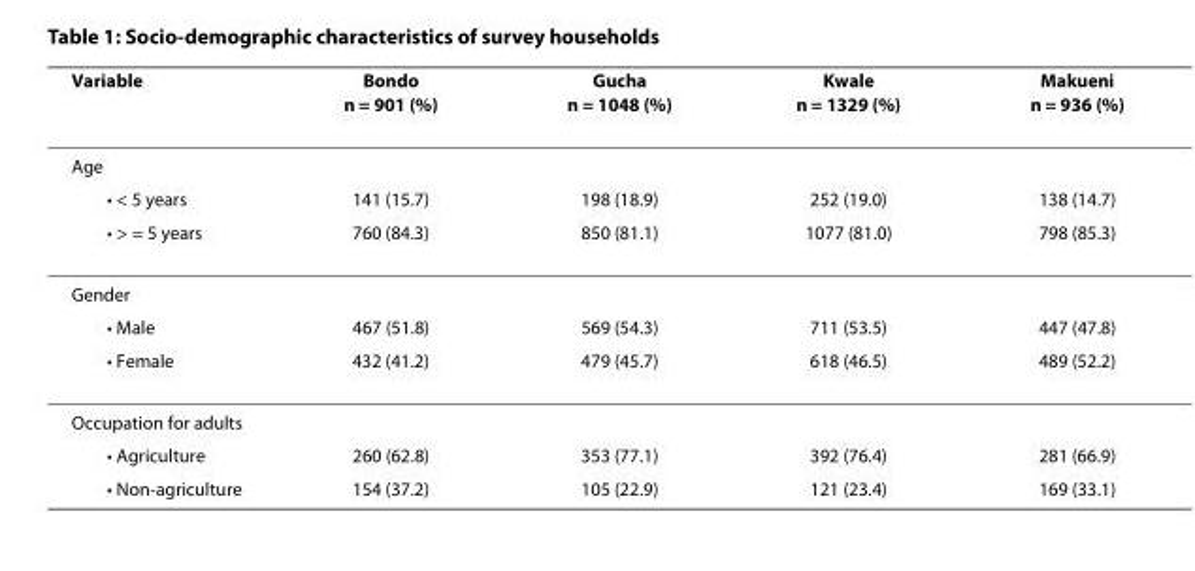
<table><thead><tr><td>Variable</td><td>Bondo n = 901 (%)</td><td>Gucha n = 1048 (%)</td><td>Kwale n = 1329 (%)</td><td>Makueni n = 936 (%)</td></tr></thead><tbody><tr><td colspan="5">Age</td></tr><tr><td>• &lt; 5 years</td><td>141 (15.7)</td><td>198 (18.9)</td><td>252 (19.0)</td><td>138 (14.7)</td></tr><tr><td>• &gt; = 5 years</td><td>760 (84.3)</td><td>850 (81.1)</td><td>1077 (81.0)</td><td>798 (85.3)</td></tr><tr><td colspan="5">Gender</td></tr><tr><td>• Male</td><td>467 (51.8)</td><td>569 (54.3)</td><td>711 (53.5)</td><td>447 (47.8)</td></tr><tr><td>• Female</td><td>432 (41.2)</td><td>479 (45.7)</td><td>618 (46.5)</td><td>489 (52.2)</td></tr><tr><td colspan="5">Occupation for adults</td></tr><tr><td>• Agriculture</td><td>260 (62.8)</td><td>353 (77.1)</td><td>392 (76.4)</td><td>281 (66.9)</td></tr><tr><td>• Non-agriculture</td><td>154 (37.2)</td><td>105 (22.9)</td><td>121 (23.4)</td><td>169 (33.1)</td></tr></tbody></table>